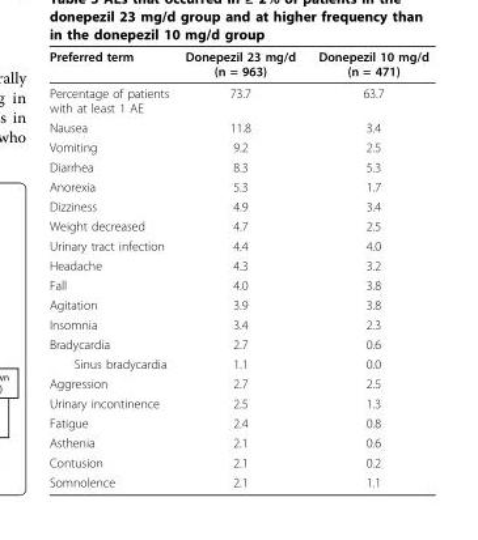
<table><thead><tr><td>Preferred term</td><td>Donepezil 23 mg/d (n = 963)</td><td>Donepezil 10 mg/d (n = 471)</td></tr></thead><tbody><tr><td>Percentage of patients with at least 1 AE</td><td>73.7</td><td>63.7</td></tr><tr><td>Nausea</td><td>11.8</td><td>3.4</td></tr><tr><td>Vomiting</td><td>9.2</td><td>2.5</td></tr><tr><td>Diarrhea</td><td>8.3</td><td>5.3</td></tr><tr><td>Anorexia</td><td>5.3</td><td>1.7</td></tr><tr><td>Dizziness</td><td>4.9</td><td>3.4</td></tr><tr><td>Weight decreased</td><td>4.7</td><td>2.5</td></tr><tr><td>Urinary tract infection</td><td>4.4</td><td>4.0</td></tr><tr><td>Headache</td><td>4.3</td><td>3.2</td></tr><tr><td>Fall</td><td>4.0</td><td>3.8</td></tr><tr><td>Agitation</td><td>3.9</td><td>3.8</td></tr><tr><td>Insomnia</td><td>3.4</td><td>2.3</td></tr><tr><td>Bradycardia</td><td>2.7</td><td>0.6</td></tr><tr><td>Sinus bradycardia</td><td>1.1</td><td>0.0</td></tr><tr><td>Aggression</td><td>2.7</td><td>2.5</td></tr><tr><td>Urinary incontinence</td><td>2.5</td><td>1.3</td></tr><tr><td>Fatigue</td><td>2.4</td><td>0.8</td></tr><tr><td>Asthenia</td><td>2.1</td><td>0.6</td></tr><tr><td>Contusion</td><td>2.1</td><td>0.2</td></tr><tr><td>Somnolence</td><td>2.1</td><td>1.1</td></tr></tbody></table>